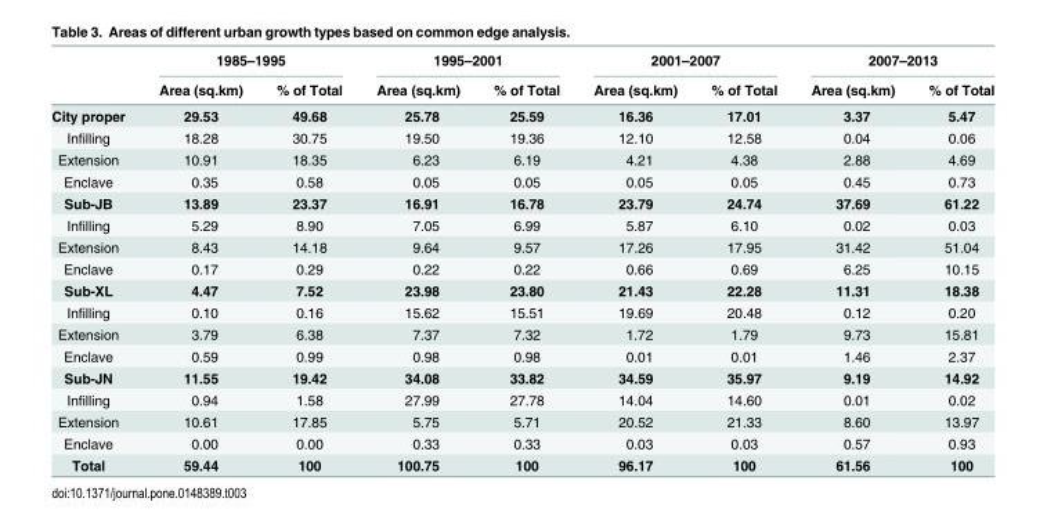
<table><thead><tr><td rowspan="2"></td><td colspan="2">1985–1995</td><td colspan="2">1995–2001</td><td colspan="2">2001–2007</td><td colspan="2">2007–2013</td></tr><tr><td>Area (sq.km)</td><td>% of Total</td><td>Area (sq.km)</td><td>% of Total</td><td>Area (sq.km)</td><td>% of Total</td><td>Area (sq.km)</td><td>% of Total</td></tr></thead><tbody><tr><td>City proper</td><td>29.53</td><td>49.68</td><td>25.78</td><td>25.59</td><td>16.36</td><td>17.01</td><td>3.37</td><td>5.47</td></tr><tr><td>Infilling</td><td>18.28</td><td>30.75</td><td>19.50</td><td>19.36</td><td>12.10</td><td>12.58</td><td>0.04</td><td>0.06</td></tr><tr><td>Extension</td><td>10.91</td><td>18.35</td><td>6.23</td><td>6.19</td><td>4.21</td><td>4.38</td><td>2.88</td><td>4.69</td></tr><tr><td>Enclave</td><td>0.35</td><td>0.58</td><td>0.05</td><td>0.05</td><td>0.05</td><td>0.05</td><td>0.45</td><td>0.73</td></tr><tr><td>Sub-JB</td><td>13.89</td><td>23.37</td><td>16.91</td><td>16.78</td><td>23.79</td><td>24.74</td><td>37.69</td><td>61.22</td></tr><tr><td>Infilling</td><td>5.29</td><td>8.90</td><td>7.05</td><td>6.99</td><td>5.87</td><td>6.10</td><td>0.02</td><td>0.03</td></tr><tr><td>Extension</td><td>8.43</td><td>14.18</td><td>9.64</td><td>9.57</td><td>17.26</td><td>17.95</td><td>31.42</td><td>51.04</td></tr><tr><td>Enclave</td><td>0.17</td><td>0.29</td><td>0.22</td><td>0.22</td><td>0.66</td><td>0.69</td><td>6.25</td><td>10.15</td></tr><tr><td>Sub-XL</td><td>4.47</td><td>7.52</td><td>23.98</td><td>23.80</td><td>21.43</td><td>22.28</td><td>11.31</td><td>18.38</td></tr><tr><td>Infilling</td><td>0.10</td><td>0.16</td><td>15.62</td><td>15.51</td><td>19.69</td><td>20.48</td><td>0.12</td><td>0.20</td></tr><tr><td>Extension</td><td>3.79</td><td>6.38</td><td>7.37</td><td>7.32</td><td>1.72</td><td>1.79</td><td>9.73</td><td>15.81</td></tr><tr><td>Enclave</td><td>0.59</td><td>0.99</td><td>0.98</td><td>0.98</td><td>0.01</td><td>0.01</td><td>1.46</td><td>2.37</td></tr><tr><td>Sub-JN</td><td>11.55</td><td>19.42</td><td>34.08</td><td>33.82</td><td>34.59</td><td>35.97</td><td>9.19</td><td>14.92</td></tr><tr><td>Infilling</td><td>0.94</td><td>1.58</td><td>27.99</td><td>27.78</td><td>14.04</td><td>14.60</td><td>0.01</td><td>0.02</td></tr><tr><td>Extension</td><td>10.61</td><td>17.85</td><td>5.75</td><td>5.71</td><td>20.52</td><td>21.33</td><td>8.60</td><td>13.97</td></tr><tr><td>Enclave</td><td>0.00</td><td>0.00</td><td>0.33</td><td>0.33</td><td>0.03</td><td>0.03</td><td>0.57</td><td>0.93</td></tr><tr><td>Total</td><td>59.44</td><td>100</td><td>100.75</td><td>100</td><td>96.17</td><td>100</td><td>61.56</td><td>100</td></tr></tbody></table>